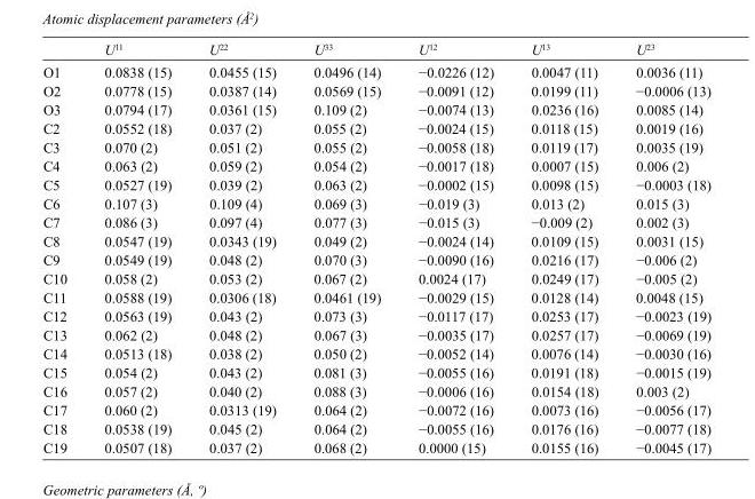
<table><thead><tr><td></td><td>U<sup>11</sup></td><td>U<sup>22</sup></td><td>U<sup>33</sup></td><td>U<sup>12</sup></td><td>U<sup>13</sup></td><td>U<sup>23</sup></td></tr></thead><tbody><tr><td>O1</td><td>0.0838 (15)</td><td>0.0455 (15)</td><td>0.0496 (14)</td><td>−0.0226 (12)</td><td>0.0047 (11)</td><td>0.0036 (11)</td></tr><tr><td>O2</td><td>0.0778 (15)</td><td>0.0387 (14)</td><td>0.0569 (15)</td><td>−0.0091 (12)</td><td>0.0199 (11)</td><td>−0.0006 (13)</td></tr><tr><td>O3</td><td>0.0794 (17)</td><td>0.0361 (15)</td><td>0.109 (2)</td><td>−0.0074 (13)</td><td>0.0236 (16)</td><td>0.0085 (14)</td></tr><tr><td>C2</td><td>0.0552 (18)</td><td>0.037 (2)</td><td>0.055 (2)</td><td>−0.0024 (15)</td><td>0.0118 (15)</td><td>0.0019 (16)</td></tr><tr><td>C3</td><td>0.070 (2)</td><td>0.051 (2)</td><td>0.055 (2)</td><td>−0.0058 (18)</td><td>0.0119 (17)</td><td>0.0035 (19)</td></tr><tr><td>C4</td><td>0.063 (2)</td><td>0.059 (2)</td><td>0.054 (2)</td><td>−0.0017 (18)</td><td>0.0007 (15)</td><td>0.006 (2)</td></tr><tr><td>C5</td><td>0.0527 (19)</td><td>0.039 (2)</td><td>0.063 (2)</td><td>−0.0002 (15)</td><td>0.0098 (15)</td><td>−0.0003 (18)</td></tr><tr><td>C6</td><td>0.107 (3)</td><td>0.109 (4)</td><td>0.069 (3)</td><td>−0.019 (3)</td><td>0.013 (2)</td><td>0.015 (3)</td></tr><tr><td>C7</td><td>0.086 (3)</td><td>0.097 (4)</td><td>0.077 (3)</td><td>−0.015 (3)</td><td>−0.009 (2)</td><td>0.002 (3)</td></tr><tr><td>C8</td><td>0.0547 (19)</td><td>0.0343 (19)</td><td>0.049 (2)</td><td>−0.0024 (14)</td><td>0.0109 (15)</td><td>0.0031 (15)</td></tr><tr><td>C9</td><td>0.0549 (19)</td><td>0.048 (2)</td><td>0.070 (3)</td><td>−0.0090 (16)</td><td>0.0216 (17)</td><td>−0.006 (2)</td></tr><tr><td>C10</td><td>0.058 (2)</td><td>0.053 (2)</td><td>0.067 (2)</td><td>0.0024 (17)</td><td>0.0249 (17)</td><td>−0.005 (2)</td></tr><tr><td>C11</td><td>0.0588 (19)</td><td>0.0306 (18)</td><td>0.0461 (19)</td><td>−0.0029 (15)</td><td>0.0128 (14)</td><td>0.0048 (15)</td></tr><tr><td>C12</td><td>0.0563 (19)</td><td>0.043 (2)</td><td>0.073 (3)</td><td>−0.0117 (17)</td><td>0.0253 (17)</td><td>−0.0023 (19)</td></tr><tr><td>C13</td><td>0.062 (2)</td><td>0.048 (2)</td><td>0.067 (3)</td><td>−0.0035 (17)</td><td>0.0257 (17)</td><td>−0.0069 (19)</td></tr><tr><td>C14</td><td>0.0513 (18)</td><td>0.038 (2)</td><td>0.050 (2)</td><td>−0.0052 (14)</td><td>0.0076 (14)</td><td>−0.0030 (16)</td></tr><tr><td>C15</td><td>0.054 (2)</td><td>0.043 (2)</td><td>0.081 (3)</td><td>−0.0055 (16)</td><td>0.0191 (18)</td><td>−0.0015 (19)</td></tr><tr><td>C16</td><td>0.057 (2)</td><td>0.040 (2)</td><td>0.088 (3)</td><td>−0.0006 (16)</td><td>0.0154 (18)</td><td>0.003 (2)</td></tr><tr><td>C17</td><td>0.060 (2)</td><td>0.0313 (19)</td><td>0.064 (2)</td><td>−0.0072 (16)</td><td>0.0073 (16)</td><td>−0.0056 (17)</td></tr><tr><td>C18</td><td>0.0538 (19)</td><td>0.045 (2)</td><td>0.064 (2)</td><td>−0.0055 (16)</td><td>0.0176 (16)</td><td>−0.0077 (18)</td></tr><tr><td>C19</td><td>0.0507 (18)</td><td>0.037 (2)</td><td>0.068 (2)</td><td>0.0000 (15)</td><td>0.0155 (16)</td><td>−0.0045 (17)</td></tr></tbody></table>